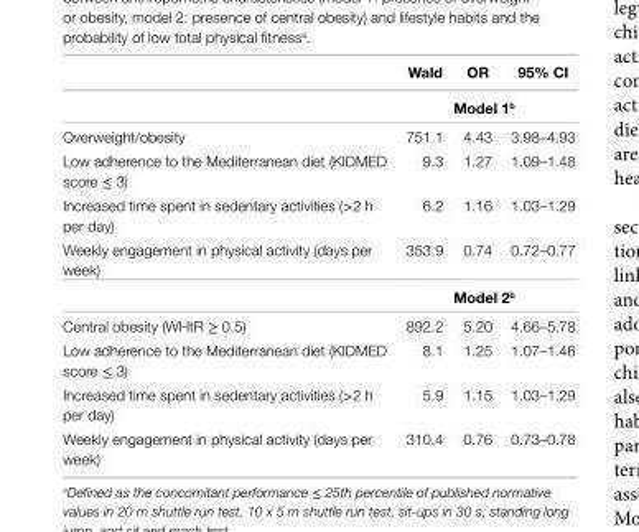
<table><thead><tr><td></td><td>Wald</td><td>Or</td><td>95% ci</td></tr></thead><tbody><tr><td></td><td colspan="3">Model 1<sup>b</sup></td></tr><tr><td>Overweight/obesity</td><td>751.1</td><td>4.43</td><td>3.98–4.93</td></tr><tr><td>Low adherence to the Mediterranean diet (KIDMED score ≤ 3)</td><td>9.3</td><td>1.27</td><td>1.09–1.48</td></tr><tr><td>Increased time spent in sedentary activities (&gt;2 h per day)</td><td>6.2</td><td>1.16</td><td>1.03–1.29</td></tr><tr><td rowspan="2">Weekly engagement in physical activity (days per week)</td><td>353.9</td><td>0.74</td><td>0.72–0.77</td></tr><tr><td colspan="3">Model 2<sup>b</sup></td></tr><tr><td>Central obesity (WHtR ≥ 0.5)</td><td>892.2</td><td>5.20</td><td>4.66–5.78</td></tr><tr><td>Low adherence to the Mediterranean diet (KIDMED score ≤ 3)</td><td>8.1</td><td>1.25</td><td>1.07–1.46</td></tr><tr><td>Increased time spent in sedentary activities (&gt;2 h per day)</td><td>5.9</td><td>1.15</td><td>1.03–1.29</td></tr><tr><td>Weekly engagement in physical activity (days per week)</td><td>310.4</td><td>0.76</td><td>0.73–0.78</td></tr></tbody></table>